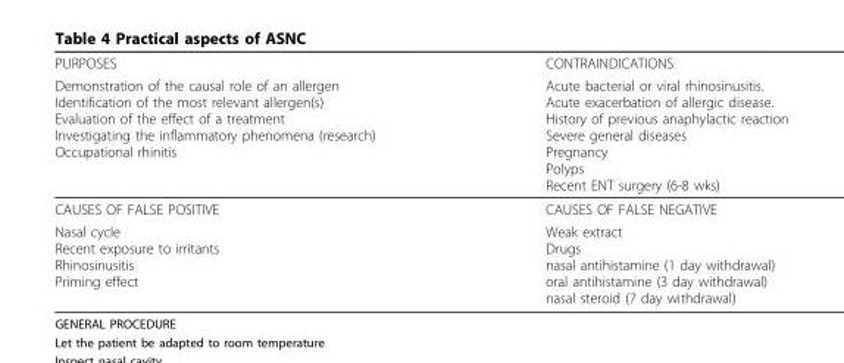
<table><thead><tr><td rowspan="2">PURPOSES Demonstration of the causal role of an allergen Identification of the most relevant allergen(s) Evaluation of the effect of a treatment Investigating the inflammatory phenomena (research) Occupational rhinitis</td><td rowspan="2">CONTRAINDICATIONS Acute bacterial or viral rhinosinusitis. Acute exacerbation of allergic disease. History of previous anaphylactic reaction Severe general diseases Pregnancy Polyps Recent ENT surgery (6-8 wks)</td></tr><tr></tr></thead><tbody><tr><td>CAUSES OF FALSE POSITIVE</td><td>CAUSES OF FALSE NEGATIVE</td></tr><tr><td>Nasal cycle Recent exposure to irritants Rhinosinusitis Priming effect</td><td>Weak extract Drugs nasal antihistamine (1 day withdrawal) oral antihistamine (3 day withdrawal) nasal steroid (7 day withdrawal)</td></tr></tbody></table>